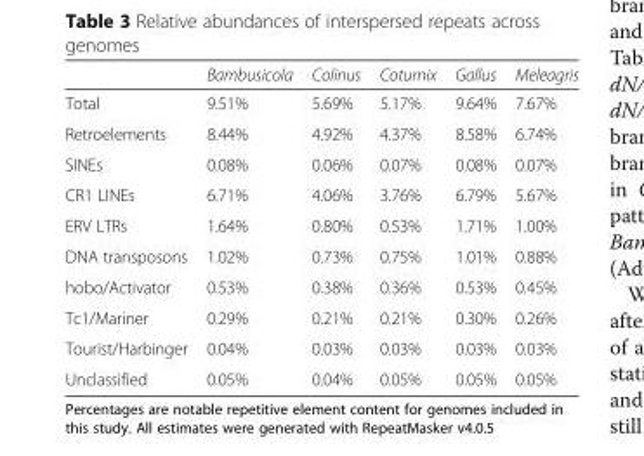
<table><thead><tr><td></td><td>Bambusicola</td><td>Colinus</td><td>Coturnix</td><td>Gallus</td><td>Meleagris</td></tr></thead><tbody><tr><td>Total</td><td>9.51%</td><td>5.69%</td><td>5.17%</td><td>9.64%</td><td>7.67%</td></tr><tr><td>Retroelements</td><td>8.44%</td><td>4.92%</td><td>4.37%</td><td>8.58%</td><td>6.74%</td></tr><tr><td>SINEs</td><td>0.08%</td><td>0.06%</td><td>0.07%</td><td>0.08%</td><td>0.07%</td></tr><tr><td>CR1 LINEs</td><td>6.71%</td><td>4.06%</td><td>3.76%</td><td>6.79%</td><td>5.67%</td></tr><tr><td>ERV LTRs</td><td>1.64%</td><td>0.80%</td><td>0.53%</td><td>1.71%</td><td>1.00%</td></tr><tr><td>DNA transposons</td><td>1.02%</td><td>0.73%</td><td>0.75%</td><td>1.01%</td><td>0.88%</td></tr><tr><td>hobo/Activator</td><td>0.53%</td><td>0.38%</td><td>0.36%</td><td>0.53%</td><td>0.45%</td></tr><tr><td>Tc1/Mariner</td><td>0.29%</td><td>0.21%</td><td>0.21%</td><td>0.30%</td><td>0.26%</td></tr><tr><td>Tourist/Harbinger</td><td>0.04%</td><td>0.03%</td><td>0.03%</td><td>0.03%</td><td>0.03%</td></tr><tr><td>Unclassified</td><td>0.05%</td><td>0.04%</td><td>0.05%</td><td>0.05%</td><td>0.05%</td></tr></tbody></table>